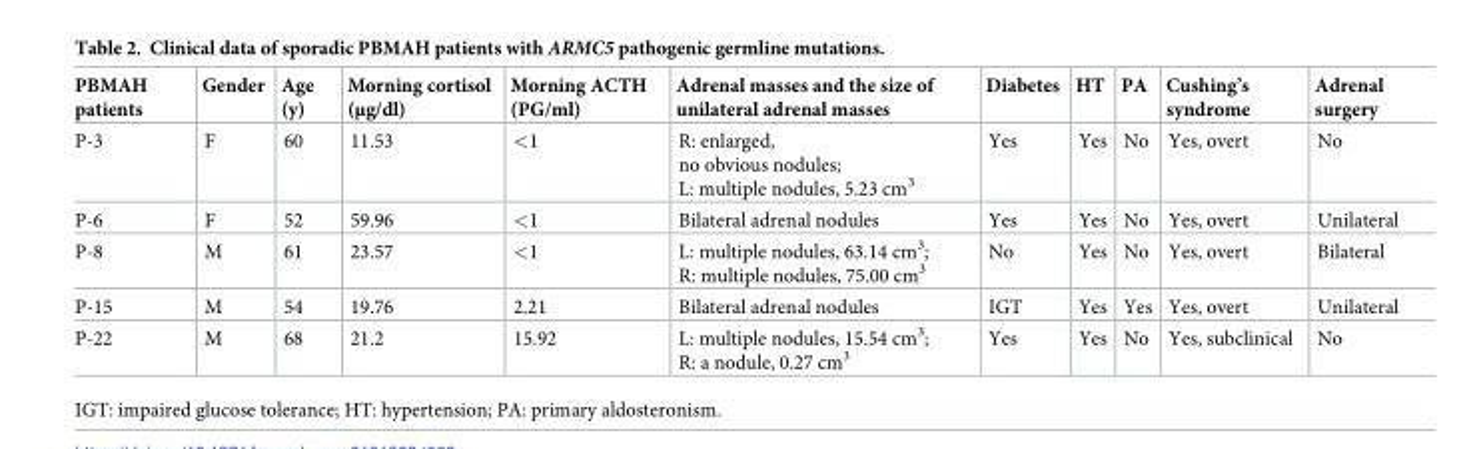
<table><thead><tr><td>PBMAH patients</td><td>Gender</td><td>Age (y)</td><td>Morning cortisol (μg/dl)</td><td>Morning ACTH (PG/ml)</td><td>Adrenal masses and the size of unilateral adrenal masses</td><td>Diabetes</td><td>HT</td><td>PA</td><td>Cushing’s syndrome</td><td>Adrenal surgery</td></tr></thead><tbody><tr><td>P-3</td><td>F</td><td>60</td><td>11.53</td><td>&lt;1</td><td>R: enlarged, no obvious nodules; L: multiple nodules, 5.23 cm<sup>3</sup></td><td>Yes</td><td>Yes</td><td>No</td><td>Yes, overt</td><td>No</td></tr><tr><td>P-6</td><td>F</td><td>52</td><td>59.96</td><td>&lt;1</td><td>Bilateral adrenal nodules</td><td>Yes</td><td>Yes</td><td>No</td><td>Yes, overt</td><td>Unilateral</td></tr><tr><td>P-8</td><td>M</td><td>61</td><td>23.57</td><td>&lt;1</td><td>L: multiple nodules, 63.14 cm<sup>3</sup>; R: multiple nodules, 75.00 cm<sup>3</sup></td><td>No</td><td>Yes</td><td>No</td><td>Yes, overt</td><td>Bilateral</td></tr><tr><td>P-15</td><td>M</td><td>54</td><td>19.76</td><td>2.21</td><td>Bilateral adrenal nodules</td><td>IGT</td><td>Yes</td><td>Yes</td><td>Yes, overt</td><td>Unilateral</td></tr><tr><td>P-22</td><td>M</td><td>68</td><td>21.2</td><td>15.92</td><td>L: multiple nodules, 15.54 cm<sup>3</sup>; R: a nodule, 0.27 cm<sup>3</sup></td><td>Yes</td><td>Yes</td><td>No</td><td>Yes, subclinical</td><td>No</td></tr></tbody></table>